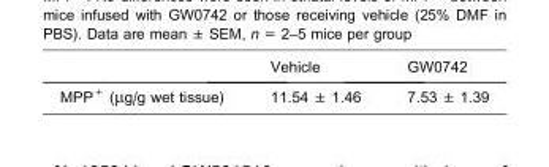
<table><thead><tr><td></td><td>Vehicle</td><td>GW0742</td></tr></thead><tbody><tr><td>MPP<sup>+</sup> (μg/g wet tissue)</td><td>11.54 ± 1.46</td><td>7.53 ± 1.39</td></tr></tbody></table>